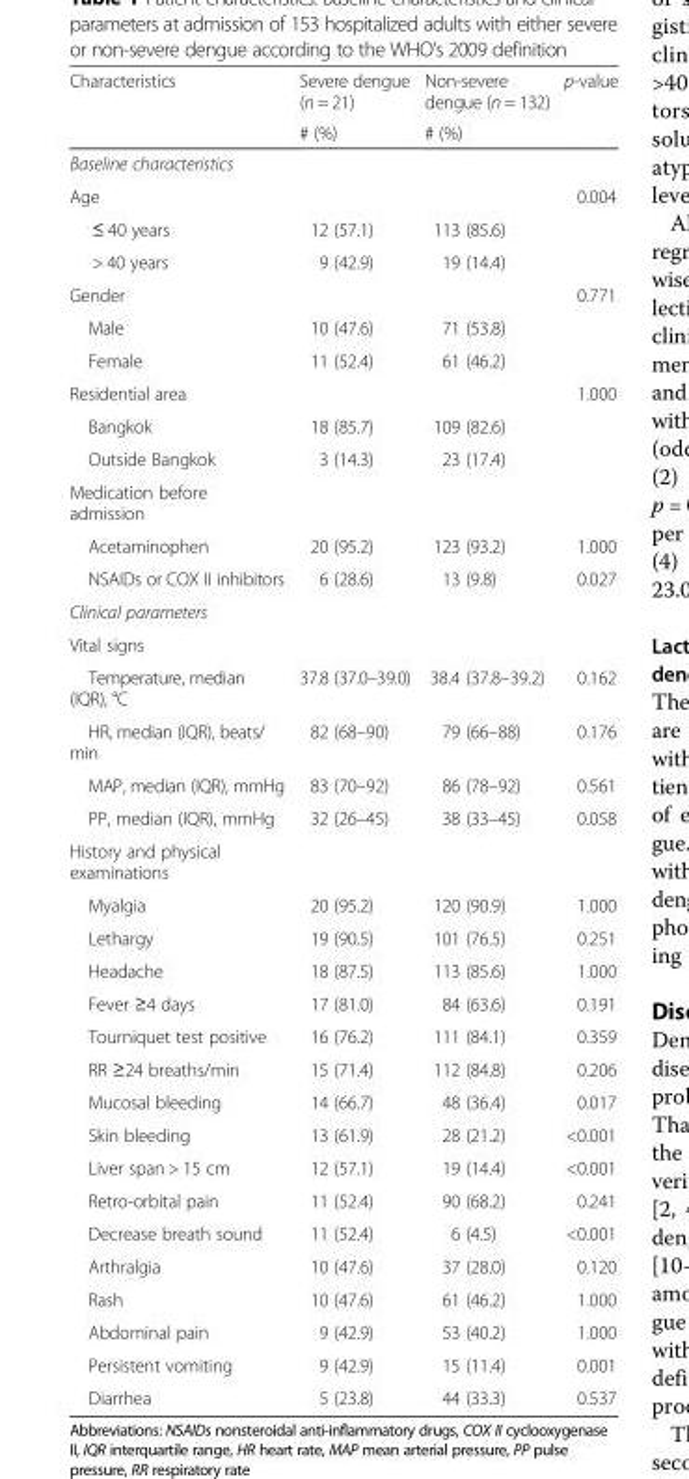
<table><thead><tr><td rowspan="2">Characteristics</td><td rowspan="2">Severe dengue (n = 21) # (%)</td><td rowspan="2">Non-severe dengue (n = 132) # (%)</td><td rowspan="2">p-value</td></tr><tr></tr></thead><tbody><tr><td colspan="4">Baseline characteristics</td></tr><tr><td>Age</td><td></td><td></td><td>0.004</td></tr><tr><td>≤ 40 years</td><td>12 (57.1)</td><td>113 (85.6)</td><td></td></tr><tr><td>&gt; 40 years</td><td>9 (42.9)</td><td>19 (14.4)</td><td></td></tr><tr><td>Gender</td><td></td><td></td><td>0.771</td></tr><tr><td>Male</td><td>10 (47.6)</td><td>71 (53.8)</td><td></td></tr><tr><td>Female</td><td>11 (52.4)</td><td>61 (46.2)</td><td></td></tr><tr><td>Residential area</td><td></td><td></td><td>1.000</td></tr><tr><td>Bangkok</td><td>18 (85.7)</td><td>109 (82.6)</td><td></td></tr><tr><td>Outside Bangkok</td><td>3 (14.3)</td><td>23 (17.4)</td><td></td></tr><tr><td colspan="4">Medication before admission</td></tr><tr><td>Acetaminophen</td><td>20 (95.2)</td><td>123 (93.2)</td><td>1.000</td></tr><tr><td>NSAIDs or COX II inhibitors</td><td>6 (28.6)</td><td>13 (9.8)</td><td>0.027</td></tr><tr><td colspan="4">Clinical parameters</td></tr><tr><td colspan="4">Vital signs</td></tr><tr><td>Temperature, median (IQR), °C</td><td>37.8 (37.0–39.0)</td><td>38.4 (37.8–39.2)</td><td>0.162</td></tr><tr><td>HR, median (IQR), beats/ min</td><td>82 (68–90)</td><td>79 (66–88)</td><td>0.176</td></tr><tr><td>MAP, median (IQR), mmHg</td><td>83 (70–92)</td><td>86 (78–92)</td><td>0.561</td></tr><tr><td>PP, median (IQR), mmHg</td><td>32 (26–45)</td><td>38 (33–45)</td><td>0.058</td></tr><tr><td colspan="4">History and physical examinations</td></tr><tr><td>Myalgia</td><td>20 (95.2)</td><td>120 (90.9)</td><td>1.000</td></tr><tr><td>Lethargy</td><td>19 (90.5)</td><td>101 (76.5)</td><td>0.251</td></tr><tr><td>Headache</td><td>18 (87.5)</td><td>113 (85.6)</td><td>1.000</td></tr><tr><td>Fever ≥4 days</td><td>17 (81.0)</td><td>84 (63.6)</td><td>0.191</td></tr><tr><td>Tourniquet test positive</td><td>16 (76.2)</td><td>111 (84.1)</td><td>0.359</td></tr><tr><td>RR ≥24 breaths/min</td><td>15 (71.4)</td><td>112 (84.8)</td><td>0.206</td></tr><tr><td>Mucosal bleeding</td><td>14 (66.7)</td><td>48 (36.4)</td><td>0.017</td></tr><tr><td>Skin bleeding</td><td>13 (61.9)</td><td>28 (21.2)</td><td>&lt;0.001</td></tr><tr><td>Liver span &gt; 15 cm</td><td>12 (57.1)</td><td>19 (14.4)</td><td>&lt;0.001</td></tr><tr><td>Retro-orbital pain</td><td>11 (52.4)</td><td>90 (68.2)</td><td>0.241</td></tr><tr><td>Decrease breath sound</td><td>11 (52.4)</td><td>6 (4.5)</td><td>&lt;0.001</td></tr><tr><td>Arthralgia</td><td>10 (47.6)</td><td>37 (28.0)</td><td>0.120</td></tr><tr><td>Rash</td><td>10 (47.6)</td><td>61 (46.2)</td><td>1.000</td></tr><tr><td>Abdominal pain</td><td>9 (42.9)</td><td>53 (40.2)</td><td>1.000</td></tr><tr><td>Persistent vomiting</td><td>9 (42.9)</td><td>15 (11.4)</td><td>0.001</td></tr><tr><td>Diarrhea</td><td>5 (23.8)</td><td>44 (33.3)</td><td>0.537</td></tr></tbody></table>